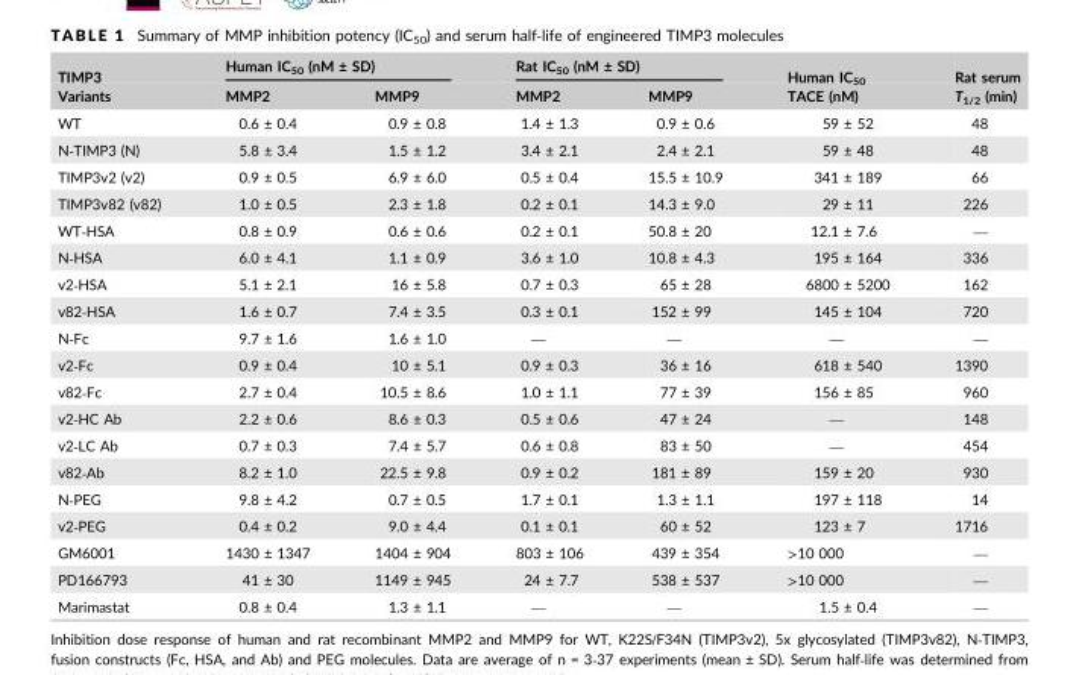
<table><thead><tr><td rowspan="2">TIMP3 Variants</td><td colspan="2">Human IC<sub>50</sub> (nM ± SD)</td><td colspan="2">Rat IC<sub>50</sub> (nM ± SD)</td><td rowspan="2">Human IC<sub>50</sub> TACE (nM)</td><td rowspan="2">Rat serum T<sub>1/2</sub> (min)</td></tr><tr><td>MMP2</td><td>MMP9</td><td>MMP2</td><td>MMP9</td></tr></thead><tbody><tr><td>WT</td><td>0.6 ± 0.4</td><td>0.9 ± 0.8</td><td>1.4 ± 1.3</td><td>0.9 ± 0.6</td><td>59 ± 52</td><td>48</td></tr><tr><td>N‐TIMP3 (N)</td><td>5.8 ± 3.4</td><td>1.5 ± 1.2</td><td>3.4 ± 2.1</td><td>2.4 ± 2.1</td><td>59 ± 48</td><td>48</td></tr><tr><td>TIMP3v2 (v2)</td><td>0.9 ± 0.5</td><td>6.9 ± 6.0</td><td>0.5 ± 0.4</td><td>15.5 ± 10.9</td><td>341 ± 189</td><td>66</td></tr><tr><td>TIMP3v82 (v82)</td><td>1.0 ± 0.5</td><td>2.3 ± 1.8</td><td>0.2 ± 0.1</td><td>14.3 ± 9.0</td><td>29 ± 11</td><td>226</td></tr><tr><td>WT‐HSA</td><td>0.8 ± 0.9</td><td>0.6 ± 0.6</td><td>0.2 ± 0.1</td><td>50.8 ± 20</td><td>12.1 ± 7.6</td><td>—</td></tr><tr><td>N‐HSA</td><td>6.0 ± 4.1</td><td>1.1 ± 0.9</td><td>3.6 ± 1.0</td><td>10.8 ± 4.3</td><td>195 ± 164</td><td>336</td></tr><tr><td>v2‐HSA</td><td>5.1 ± 2.1</td><td>16 ± 5.8</td><td>0.7 ± 0.3</td><td>65 ± 28</td><td>6800 ± 5200</td><td>162</td></tr><tr><td>v82‐HSA</td><td>1.6 ± 0.7</td><td>7.4 ± 3.5</td><td>0.3 ± 0.1</td><td>152 ± 99</td><td>145 ± 104</td><td>720</td></tr><tr><td>N‐Fc</td><td>9.7 ± 1.6</td><td>1.6 ± 1.0</td><td>—</td><td>—</td><td>—</td><td>—</td></tr><tr><td>v2‐Fc</td><td>0.9 ± 0.4</td><td>10 ± 5.1</td><td>0.9 ± 0.3</td><td>36 ± 16</td><td>618 ± 540</td><td>1390</td></tr><tr><td>v82‐Fc</td><td>2.7 ± 0.4</td><td>10.5 ± 8.6</td><td>1.0 ± 1.1</td><td>77 ± 39</td><td>156 ± 85</td><td>960</td></tr><tr><td>v2‐HC Ab</td><td>2.2 ± 0.6</td><td>8.6 ± 0.3</td><td>0.5 ± 0.6</td><td>47 ± 24</td><td>—</td><td>148</td></tr><tr><td>v2‐LC Ab</td><td>0.7 ± 0.3</td><td>7.4 ± 5.7</td><td>0.6 ± 0.8</td><td>83 ± 50</td><td>—</td><td>454</td></tr><tr><td>v82‐Ab</td><td>8.2 ± 1.0</td><td>22.5 ± 9.8</td><td>0.9 ± 0.2</td><td>181 ± 89</td><td>159 ± 20</td><td>930</td></tr><tr><td>N‐PEG</td><td>9.8 ± 4.2</td><td>0.7 ± 0.5</td><td>1.7 ± 0.1</td><td>1.3 ± 1.1</td><td>197 ± 118</td><td>14</td></tr><tr><td>v2‐PEG</td><td>0.4 ± 0.2</td><td>9.0 ± 4.4</td><td>0.1 ± 0.1</td><td>60 ± 52</td><td>123 ± 7</td><td>1716</td></tr><tr><td>GM6001</td><td>1430 ± 1347</td><td>1404 ± 904</td><td>803 ± 106</td><td>439 ± 354</td><td>&gt;10 000</td><td>—</td></tr><tr><td>PD166793</td><td>41 ± 30</td><td>1149 ± 945</td><td>24 ± 7.7</td><td>538 ± 537</td><td>&gt;10 000</td><td>—</td></tr><tr><td>Marimastat</td><td>0.8 ± 0.4</td><td>1.3 ± 1.1</td><td>—</td><td>—</td><td>1.5 ± 0.4</td><td>—</td></tr></tbody></table>